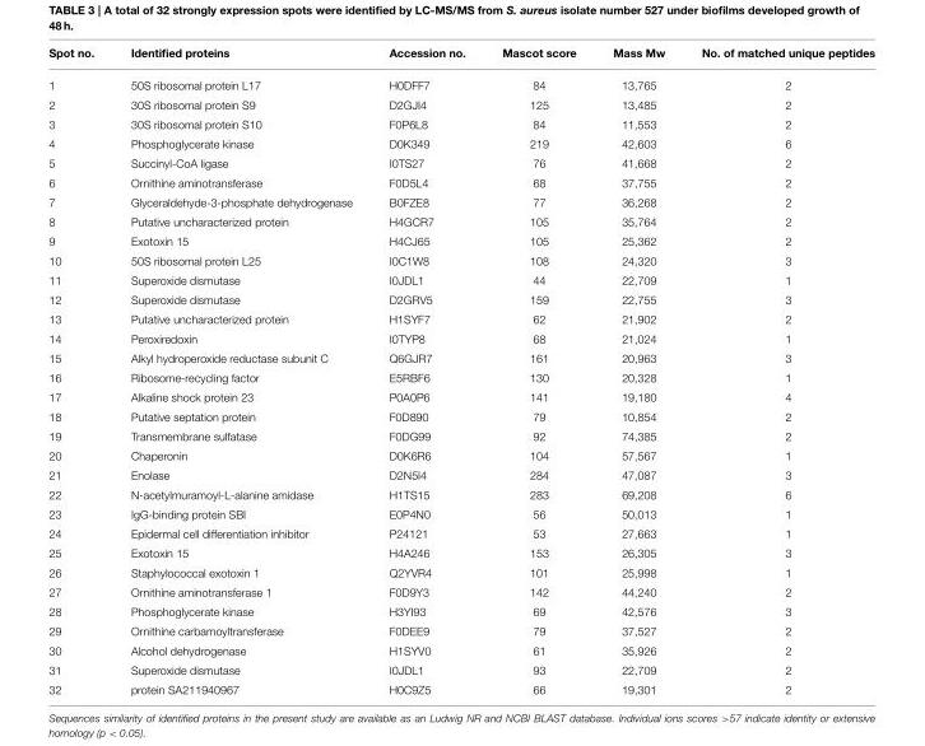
<table><thead><tr><td>Spot no.</td><td>Identified proteins</td><td>Accession no.</td><td>Mascot score</td><td>Mass Mw</td><td>No. of matched unique peptides</td></tr></thead><tbody><tr><td>1</td><td>50S ribosomal protein L17</td><td>H0DFF7</td><td>84</td><td>13,765</td><td>2</td></tr><tr><td>2</td><td>30S ribosomal protein S9</td><td>D2GJI4</td><td>125</td><td>13,485</td><td>2</td></tr><tr><td>3</td><td>30S ribosomal protein S10</td><td>F0P6L8</td><td>84</td><td>11,553</td><td>2</td></tr><tr><td>4</td><td>Phosphoglycerate kinase</td><td>D0K349</td><td>219</td><td>42,603</td><td>6</td></tr><tr><td>5</td><td>Succinyl-CoA ligase</td><td>I0TS27</td><td>76</td><td>41,668</td><td>2</td></tr><tr><td>6</td><td>Ornithine aminotransferase</td><td>F0D5L4</td><td>68</td><td>37,755</td><td>2</td></tr><tr><td>7</td><td>Glyceraldehyde-3-phosphate dehydrogenase</td><td>B0FZE8</td><td>77</td><td>36,268</td><td>2</td></tr><tr><td>8</td><td>Putative uncharacterized protein</td><td>H4GCR7</td><td>105</td><td>35,764</td><td>2</td></tr><tr><td>9</td><td>Exotoxin 15</td><td>H4CJ65</td><td>105</td><td>25,362</td><td>2</td></tr><tr><td>10</td><td>50S ribosomal protein L25</td><td>I0C1W8</td><td>108</td><td>24,320</td><td>3</td></tr><tr><td>11</td><td>Superoxide dismutase</td><td>I0JDL1</td><td>44</td><td>22,709</td><td>1</td></tr><tr><td>12</td><td>Superoxide dismutase</td><td>D2GRV5</td><td>159</td><td>22,755</td><td>3</td></tr><tr><td>13</td><td>Putative uncharacterized protein</td><td>H1SYF7</td><td>62</td><td>21,902</td><td>2</td></tr><tr><td>14</td><td>Peroxiredoxin</td><td>I0TYP8</td><td>68</td><td>21,024</td><td>1</td></tr><tr><td>15</td><td>Alkyl hydroperoxide reductase subunit C</td><td>Q6GJR7</td><td>161</td><td>20,963</td><td>3</td></tr><tr><td>16</td><td>Ribosome-recycling factor</td><td>E5RBF6</td><td>130</td><td>20,328</td><td>1</td></tr><tr><td>17</td><td>Alkaline shock protein 23</td><td>P0A0P6</td><td>141</td><td>19,180</td><td>4</td></tr><tr><td>18</td><td>Putative septation protein</td><td>F0D890</td><td>79</td><td>10,854</td><td>2</td></tr><tr><td>19</td><td>Transmembrane sulfatase</td><td>F0DG99</td><td>92</td><td>74,385</td><td>2</td></tr><tr><td>20</td><td>Chaperonin</td><td>D0K6R6</td><td>104</td><td>57,567</td><td>1</td></tr><tr><td>21</td><td>Enolase</td><td>D2N5I4</td><td>284</td><td>47,087</td><td>3</td></tr><tr><td>22</td><td>N-acetylmuramoyl-L-alanine amidase</td><td>H1TS15</td><td>283</td><td>69,208</td><td>6</td></tr><tr><td>23</td><td>IgG-binding protein SBI</td><td>E0P4N0</td><td>56</td><td>50,013</td><td>1</td></tr><tr><td>24</td><td>Epidermal cell differentiation inhibitor</td><td>P24121</td><td>53</td><td>27,663</td><td>1</td></tr><tr><td>25</td><td>Exotoxin 15</td><td>H4A246</td><td>153</td><td>26,305</td><td>3</td></tr><tr><td>26</td><td>Staphylococcal exotoxin 1</td><td>Q2YVR4</td><td>101</td><td>25,998</td><td>1</td></tr><tr><td>27</td><td>Ornithine aminotransferase 1</td><td>F0D9Y3</td><td>142</td><td>44,240</td><td>2</td></tr><tr><td>28</td><td>Phosphoglycerate kinase</td><td>H3YI93</td><td>69</td><td>42,576</td><td>3</td></tr><tr><td>29</td><td>Ornithine carbamoyltransferase</td><td>F0DEE9</td><td>79</td><td>37,527</td><td>2</td></tr><tr><td>30</td><td>Alcohol dehydrogenase</td><td>H1SYV0</td><td>61</td><td>35,926</td><td>2</td></tr><tr><td>31</td><td>Superoxide dismutase</td><td>I0JDL1</td><td>93</td><td>22,709</td><td>2</td></tr><tr><td>32</td><td>protein SA211940967</td><td>H0C9Z5</td><td>66</td><td>19,301</td><td>2</td></tr></tbody></table>